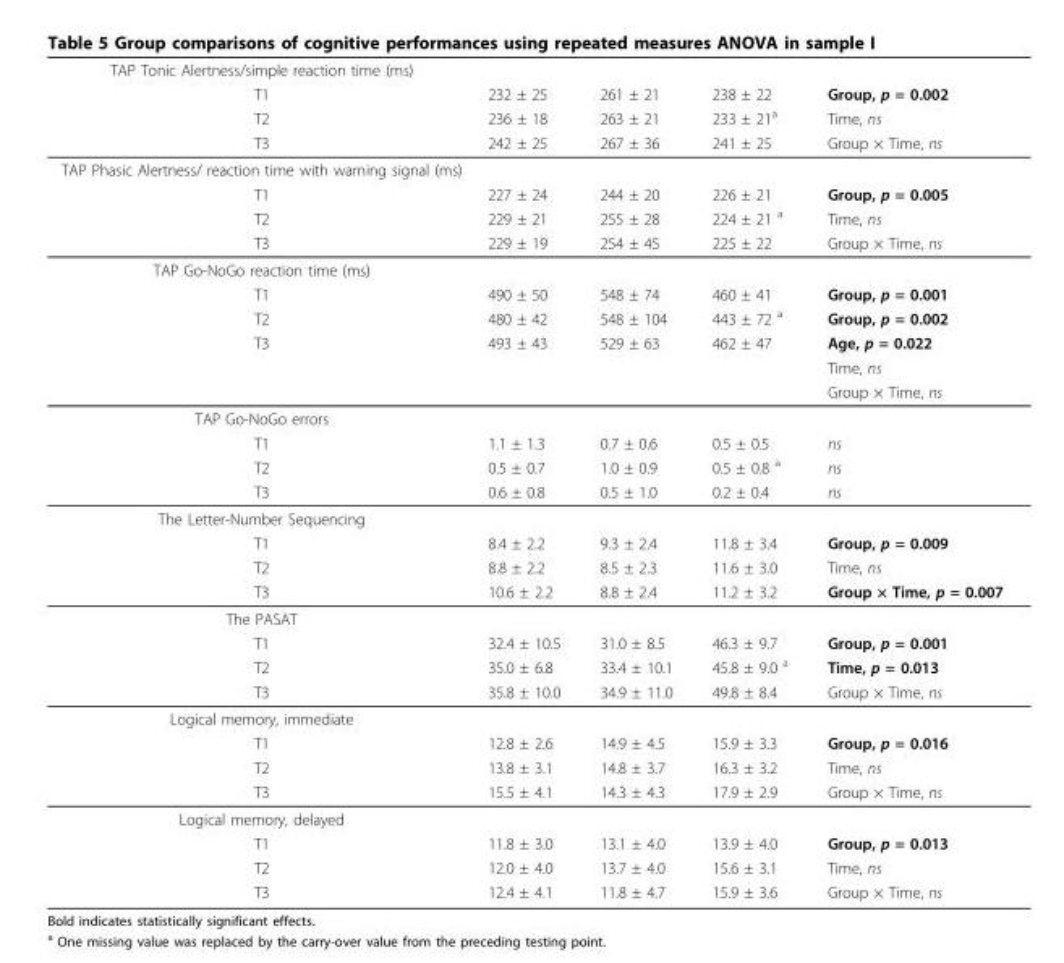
<table><thead><tr><td rowspan="4">TAP Tonic Alertness/simple reaction time (ms) T1 T2 T3</td><td rowspan="4">232 ± 25 236 ± 18 242 ± 25</td><td rowspan="4">261 ± 21 263 ± 21 267 ± 36</td><td rowspan="4">238 ± 22 233 ± 21<sup>a</sup> 241 ± 25</td><td rowspan="4">Group, p = 0.002 Time, ns Group × Time, ns</td></tr><tr></tr><tr></tr><tr></tr></thead><tbody><tr><td colspan="5">TAP Phasic Alertness/ reaction time with warning signal (ms)</td></tr><tr><td>T1</td><td>227 ± 24</td><td>244 ± 20</td><td>226 ± 21</td><td>Group, p = 0.005</td></tr><tr><td>T2</td><td>229 ± 21</td><td>255 ± 28</td><td>224 ± 21 <sup>a</sup></td><td>Time, ns</td></tr><tr><td>T3</td><td>229 ± 19</td><td>254 ± 45</td><td>225 ± 22</td><td>Group × Time, ns</td></tr><tr><td colspan="5">TAP Go-NoGo reaction time (ms)</td></tr><tr><td>T1</td><td>490 ± 50</td><td>548 ± 74</td><td>460 ± 41</td><td>Group, p = 0.001</td></tr><tr><td>T2</td><td>480 ± 42</td><td>548 ± 104</td><td>443 ± 72 <sup>a</sup></td><td>Group, p = 0.002</td></tr><tr><td rowspan="3">T3</td><td>493 ± 43</td><td>529 ± 63</td><td>462 ± 47</td><td>Age, p = 0.022</td></tr><tr><td></td><td></td><td></td><td>Time, ns</td></tr><tr><td></td><td></td><td></td><td>Group × Time, ns</td></tr><tr><td colspan="5">TAP Go-NoGo errors</td></tr><tr><td>T1</td><td>1.1 ± 1.3</td><td>0.7 ± 0.6</td><td>0.5 ± 0.5</td><td>ns</td></tr><tr><td>T2</td><td>0.5 ± 0.7</td><td>1.0 ± 0.9</td><td>0.5 ± 0.8 <sup>a</sup></td><td>ns</td></tr><tr><td>T3</td><td>0.6 ± 0.8</td><td>0.5 ± 1.0</td><td>0.2 ± 0.4</td><td>ns</td></tr><tr><td colspan="5">The Letter-Number Sequencing</td></tr><tr><td>T1</td><td>8.4 ± 2.2</td><td>9.3 ± 2.4</td><td>11.8 ± 3.4</td><td>Group, p = 0.009</td></tr><tr><td>T2</td><td>8.8 ± 2.2</td><td>8.5 ± 2.3</td><td>11.6 ± 3.0</td><td>Time, ns</td></tr><tr><td>T3</td><td>10.6 ± 2.2</td><td>8.8 ± 2.4</td><td>11.2 ± 3.2</td><td>Group × Time, p = 0.007</td></tr><tr><td colspan="5">The PASAT</td></tr><tr><td>T1</td><td>32.4 ± 10.5</td><td>31.0 ± 8.5</td><td>46.3 ± 9.7</td><td>Group, p = 0.001</td></tr><tr><td>T2</td><td>35.0 ± 6.8</td><td>33.4 ± 10.1</td><td>45.8 ± 9.0 <sup>a</sup></td><td>Time, p = 0.013</td></tr><tr><td>T3</td><td>35.8 ± 10.0</td><td>34.9 ± 11.0</td><td>49.8 ± 8.4</td><td>Group × Time, ns</td></tr><tr><td colspan="5">Logical memory, immediate</td></tr><tr><td>T1</td><td>12.8 ± 2.6</td><td>14.9 ± 4.5</td><td>15.9 ± 3.3</td><td>Group, p = 0.016</td></tr><tr><td>T2</td><td>13.8 ± 3.1</td><td>14.8 ± 3.7</td><td>16.3 ± 3.2</td><td>Time, ns</td></tr><tr><td>T3</td><td>15.5 ± 4.1</td><td>14.3 ± 4.3</td><td>17.9 ± 2.9</td><td>Group × Time, ns</td></tr><tr><td colspan="5">Logical memory, delayed</td></tr><tr><td>T1</td><td>11.8 ± 3.0</td><td>13.1 ± 4.0</td><td>13.9 ± 4.0</td><td>Group, p = 0.013</td></tr><tr><td>T2</td><td>12.0 ± 4.0</td><td>13.7 ± 4.0</td><td>15.6 ± 3.1</td><td>Time, ns</td></tr><tr><td>T3</td><td>12.4 ± 4.1</td><td>11.8 ± 4.7</td><td>15.9 ± 3.6</td><td>Group × Time, ns</td></tr></tbody></table>